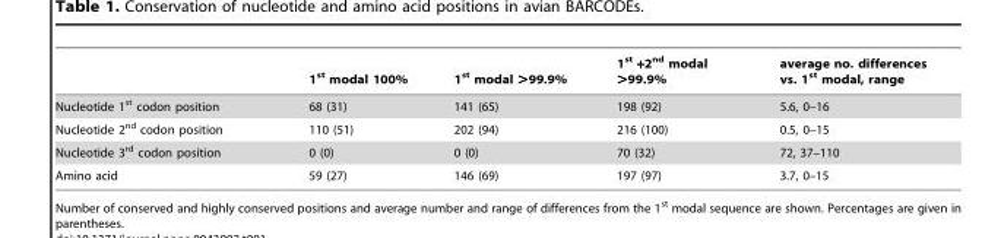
<table><thead><tr><td></td><td>1<sup>st</sup> modal 100%</td><td>1<sup>st</sup> modal &gt;99.9%</td><td>1<sup>st</sup> +2<sup>nd</sup> modal &gt;99.9%</td><td>average no. differences vs. 1<sup>st</sup> modal, range</td></tr></thead><tbody><tr><td>Nucleotide 1<sup>st</sup> codon position</td><td>68 (31)</td><td>141 (65)</td><td>198 (92)</td><td>5.6, 0–16</td></tr><tr><td>Nucleotide 2<sup>nd</sup> codon position</td><td>110 (51)</td><td>202 (94)</td><td>216 (100)</td><td>0.5, 0–15</td></tr><tr><td>Nucleotide 3<sup>rd</sup> codon position</td><td>0 (0)</td><td>0 (0)</td><td>70 (32)</td><td>72, 37–110</td></tr><tr><td>Amino acid</td><td>59 (27)</td><td>146 (69)</td><td>197 (97)</td><td>3.7, 0–15</td></tr></tbody></table>